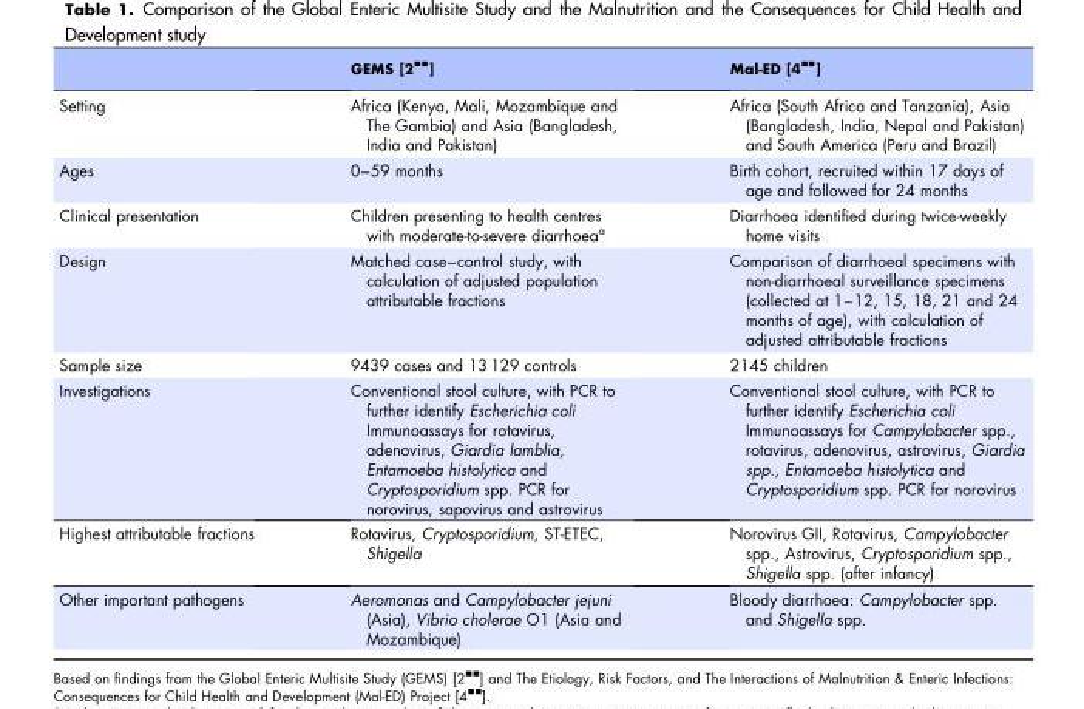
<table><thead><tr><td></td><td>GEMS [2 <sup>▪▪</sup>]</td><td>Mal-ED [4 <sup>▪▪</sup>]</td></tr></thead><tbody><tr><td>Setting</td><td>Africa (Kenya, Mali, Mozambique and The Gambia) and Asia (Bangladesh, India and Pakistan)</td><td>Africa (South Africa and Tanzania), Asia (Bangladesh, India, Nepal and Pakistan) and South America (Peru and Brazil)</td></tr><tr><td>Ages</td><td>0–59 months</td><td>Birth cohort, recruited within 17 days of age and followed for 24 months</td></tr><tr><td>Clinical presentation</td><td>Children presenting to health centres with moderate-to-severe diarrhoea<sup>a</sup></td><td>Diarrhoea identified during twice-weekly home visits</td></tr><tr><td>Design</td><td>Matched case–control study, with calculation of adjusted population attributable fractions</td><td>Comparison of diarrhoeal specimens with non-diarrhoeal surveillance specimens (collected at 1–12, 15, 18, 21 and 24 months of age), with calculation of adjusted attributable fractions</td></tr><tr><td>Sample size</td><td>9439 cases and 13 129 controls</td><td>2145 children</td></tr><tr><td>Investigations</td><td>Conventional stool culture, with PCR to further identify Escherichia coli Immunoassays for rotavirus, adenovirus, Giardia lamblia, Entamoeba histolytica and Cryptosporidium spp. PCR for norovirus, sapovirus and astrovirus</td><td>Conventional stool culture, with PCR to further identify Escherichia coli Immunoassays for Campylobacter spp., rotavirus, adenovirus, astrovirus, Giardia spp., Entamoeba histolytica and Cryptosporidium spp. PCR for norovirus</td></tr><tr><td>Highest attributable fractions</td><td>Rotavirus, Cryptosporidium, ST-ETEC, Shigella</td><td>Norovirus GII, Rotavirus, Campylobacter spp., Astrovirus, Cryptosporidium spp., Shigella spp. (after infancy)</td></tr><tr><td>Other important pathogens</td><td>Aeromonas and Campylobacter jejuni (Asia), Vibrio cholerae O1 (Asia and Mozambique)</td><td>Bloody diarrhoea: Campylobacter spp. and Shigella spp.</td></tr></tbody></table>